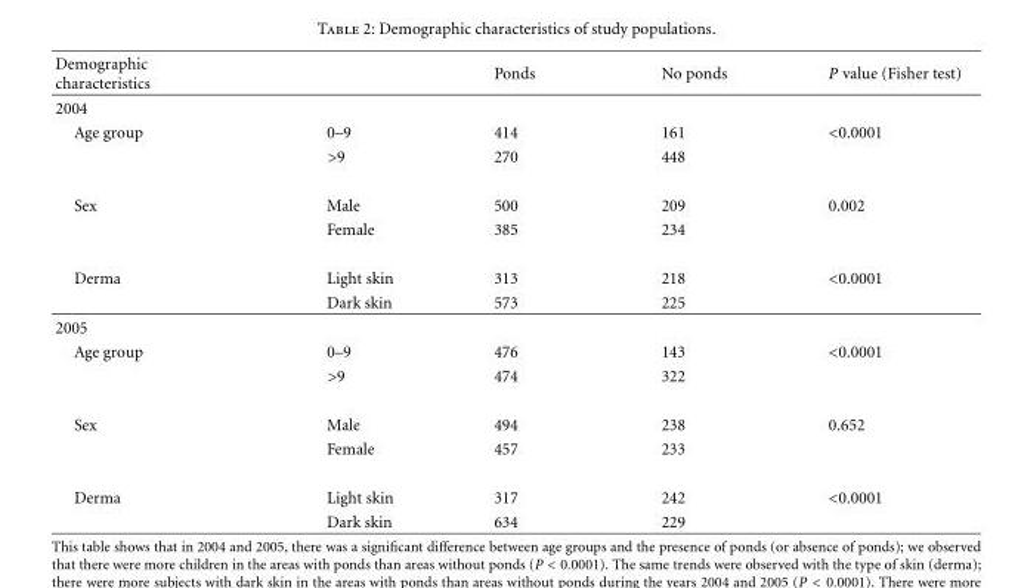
<table><thead><tr><td>Demographic characteristics</td><td></td><td>Ponds</td><td>No ponds</td><td>P value (Fisher test)</td></tr></thead><tbody><tr><td colspan="5">2004</td></tr><tr><td rowspan="2">Age group</td><td>0–9</td><td>414</td><td>161</td><td>&lt;0.0001</td></tr><tr><td>&gt;9</td><td>270</td><td>448</td><td></td></tr><tr><td rowspan="2">Sex</td><td>Male</td><td>500</td><td>209</td><td>0.002</td></tr><tr><td>Female</td><td>385</td><td>234</td><td></td></tr><tr><td rowspan="2">Derma</td><td>Light skin</td><td>313</td><td>218</td><td>&lt;0.0001</td></tr><tr><td>Dark skin</td><td>573</td><td>225</td><td></td></tr><tr><td colspan="5">2005</td></tr><tr><td rowspan="2">Age group</td><td>0–9</td><td>476</td><td>143</td><td>&lt;0.0001</td></tr><tr><td>&gt;9</td><td>474</td><td>322</td><td></td></tr><tr><td rowspan="2">Sex</td><td>Male</td><td>494</td><td>238</td><td>0.652</td></tr><tr><td>Female</td><td>457</td><td>233</td><td></td></tr><tr><td rowspan="2">Derma</td><td>Light skin</td><td>317</td><td>242</td><td>&lt;0.0001</td></tr><tr><td>Dark skin</td><td>634</td><td>229</td><td></td></tr></tbody></table>